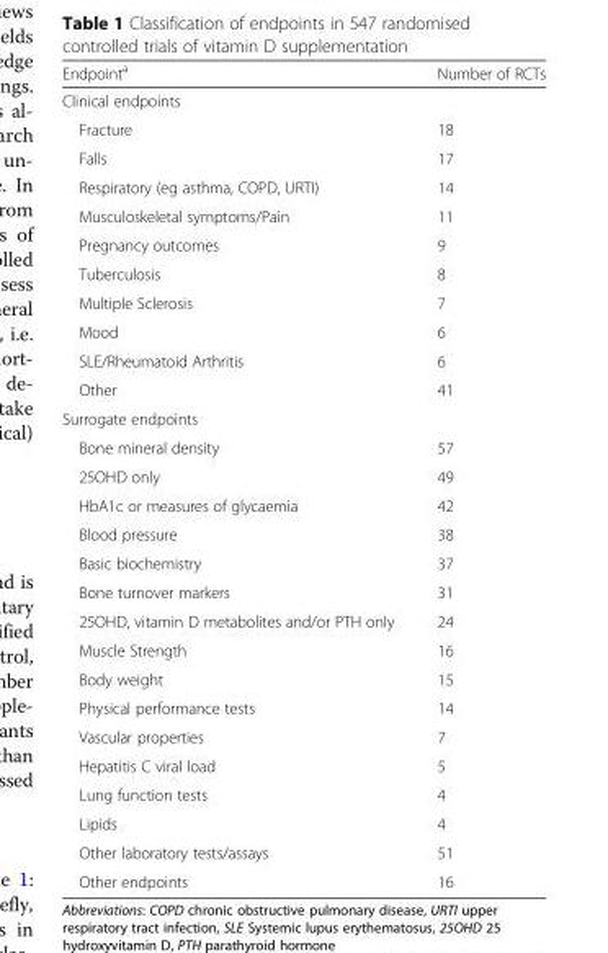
<table><thead><tr><td>Endpoint<sup>a</sup></td><td>Number of RCTs</td></tr></thead><tbody><tr><td colspan="2">Clinical endpoints</td></tr><tr><td>Fracture</td><td>18</td></tr><tr><td>Falls</td><td>17</td></tr><tr><td>Respiratory (eg asthma, COPD, URTI)</td><td>14</td></tr><tr><td>Musculoskeletal symptoms/Pain</td><td>11</td></tr><tr><td>Pregnancy outcomes</td><td>9</td></tr><tr><td>Tuberculosis</td><td>8</td></tr><tr><td>Multiple Sclerosis</td><td>7</td></tr><tr><td>Mood</td><td>6</td></tr><tr><td>SLE/Rheumatoid Arthritis</td><td>6</td></tr><tr><td>Other</td><td>41</td></tr><tr><td colspan="2">Surrogate endpoints</td></tr><tr><td>Bone mineral density</td><td>57</td></tr><tr><td>25OHD only</td><td>49</td></tr><tr><td>HbA1c or measures of glycaemia</td><td>42</td></tr><tr><td>Blood pressure</td><td>38</td></tr><tr><td>Basic biochemistry</td><td>37</td></tr><tr><td>Bone turnover markers</td><td>31</td></tr><tr><td>25OHD, vitamin D metabolites and/or PTH only</td><td>24</td></tr><tr><td>Muscle Strength</td><td>16</td></tr><tr><td>Body weight</td><td>15</td></tr><tr><td>Physical performance tests</td><td>14</td></tr><tr><td>Vascular properties</td><td>7</td></tr><tr><td>Hepatitis C viral load</td><td>5</td></tr><tr><td>Lung function tests</td><td>4</td></tr><tr><td>Lipids</td><td>4</td></tr><tr><td>Other laboratory tests/assays</td><td>51</td></tr><tr><td>Other endpoints</td><td>16</td></tr></tbody></table>